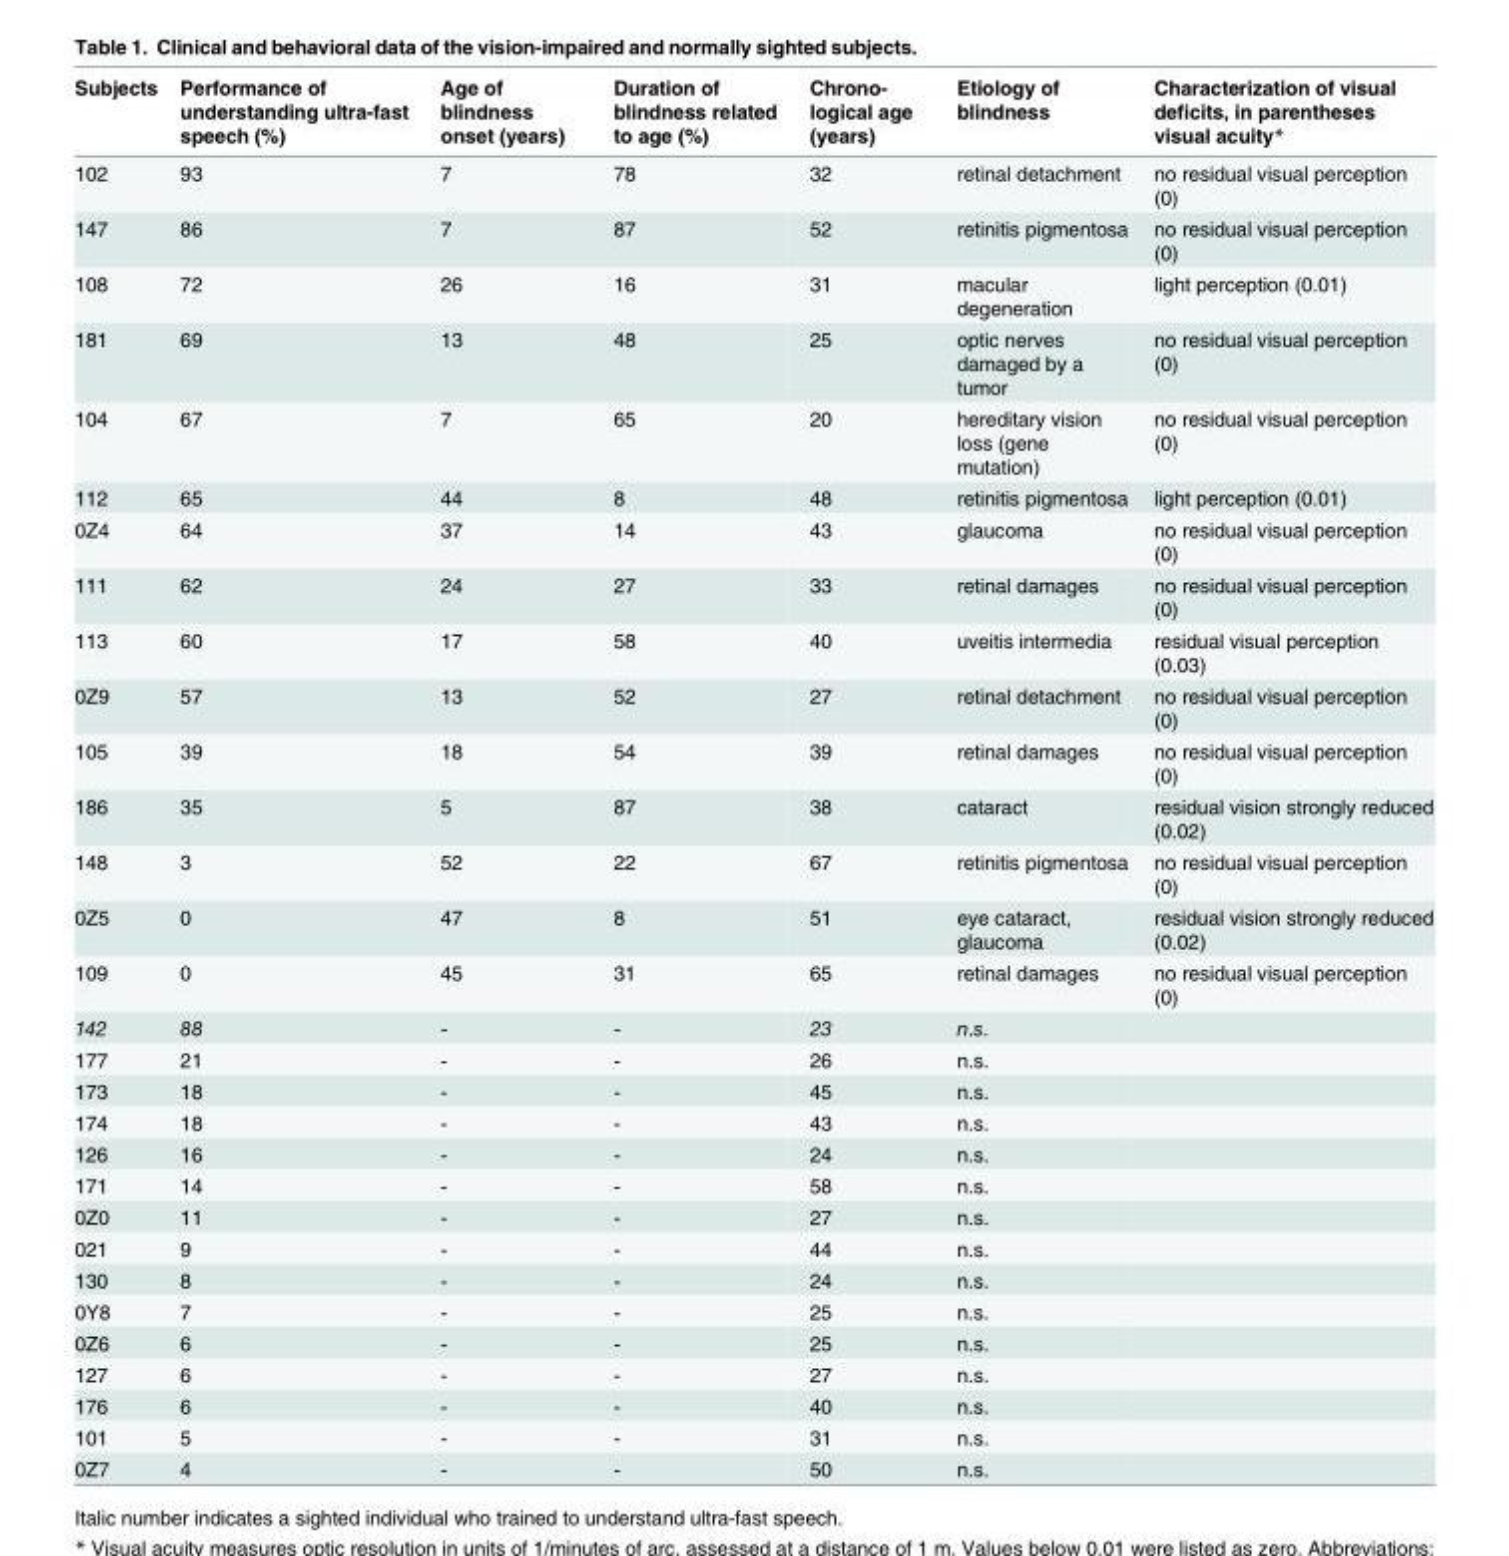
<table><thead><tr><td>Subjects</td><td>Performance of understanding ultra-fast speech (%)</td><td>Age of blindness onset (years)</td><td>Duration of blindness related to age (%)</td><td>Chrono- logical age (years)</td><td>Etiology of blindness</td><td>Characterization of visual deficits, in parentheses visual acuity*</td></tr></thead><tbody><tr><td>102</td><td>93</td><td>7</td><td>78</td><td>32</td><td>retinal detachment</td><td>no residual visual perception (0)</td></tr><tr><td>147</td><td>86</td><td>7</td><td>87</td><td>52</td><td>retinitis pigmentosa</td><td>no residual visual perception (0)</td></tr><tr><td>108</td><td>72</td><td>26</td><td>16</td><td>31</td><td>macular degeneration</td><td>light perception (0.01)</td></tr><tr><td>181</td><td>69</td><td>13</td><td>48</td><td>25</td><td>optic nerves damaged by a tumor</td><td>no residual visual perception (0)</td></tr><tr><td>104</td><td>67</td><td>7</td><td>65</td><td>20</td><td>hereditary vision loss (gene mutation)</td><td>no residual visual perception (0)</td></tr><tr><td>112</td><td>65</td><td>44</td><td>8</td><td>48</td><td>retinitis pigmentosa</td><td>light perception (0.01)</td></tr><tr><td>0Z4</td><td>64</td><td>37</td><td>14</td><td>43</td><td>glaucoma</td><td>no residual visual perception (0)</td></tr><tr><td>111</td><td>62</td><td>24</td><td>27</td><td>33</td><td>retinal damages</td><td>no residual visual perception (0)</td></tr><tr><td>113</td><td>60</td><td>17</td><td>58</td><td>40</td><td>uveitis intermedia</td><td>residual visual perception (0.03)</td></tr><tr><td>0Z9</td><td>57</td><td>13</td><td>52</td><td>27</td><td>retinal detachment</td><td>no residual visual perception (0)</td></tr><tr><td>105</td><td>39</td><td>18</td><td>54</td><td>39</td><td>retinal damages</td><td>no residual visual perception (0)</td></tr><tr><td>186</td><td>35</td><td>5</td><td>87</td><td>38</td><td>cataract</td><td>residual vision strongly reduced (0.02)</td></tr><tr><td>148</td><td>3</td><td>52</td><td>22</td><td>67</td><td>retinitis pigmentosa</td><td>no residual visual perception (0)</td></tr><tr><td>0Z5</td><td>0</td><td>47</td><td>8</td><td>51</td><td>eye cataract, glaucoma</td><td>residual vision strongly reduced (0.02)</td></tr><tr><td>109</td><td>0</td><td>45</td><td>31</td><td>65</td><td>retinal damages</td><td>no residual visual perception (0)</td></tr><tr><td>142</td><td>88</td><td>-</td><td>-</td><td>23</td><td>n.s.</td><td></td></tr><tr><td>177</td><td>21</td><td>-</td><td>-</td><td>26</td><td>n.s.</td><td></td></tr><tr><td>173</td><td>18</td><td>-</td><td>-</td><td>45</td><td>n.s.</td><td></td></tr><tr><td>174</td><td>18</td><td>-</td><td>-</td><td>43</td><td>n.s.</td><td></td></tr><tr><td>126</td><td>16</td><td>-</td><td>-</td><td>24</td><td>n.s.</td><td></td></tr><tr><td>171</td><td>14</td><td>-</td><td>-</td><td>58</td><td>n.s.</td><td></td></tr><tr><td>0Z0</td><td>11</td><td>-</td><td>-</td><td>27</td><td>n.s.</td><td></td></tr><tr><td>021</td><td>9</td><td>-</td><td>-</td><td>44</td><td>n.s.</td><td></td></tr><tr><td>130</td><td>8</td><td>-</td><td>-</td><td>24</td><td>n.s.</td><td></td></tr><tr><td>0Y8</td><td>7</td><td>-</td><td>-</td><td>25</td><td>n.s.</td><td></td></tr><tr><td>0Z6</td><td>6</td><td>-</td><td>-</td><td>25</td><td>n.s.</td><td></td></tr><tr><td>127</td><td>6</td><td>-</td><td>-</td><td>27</td><td>n.s.</td><td></td></tr><tr><td>176</td><td>6</td><td>-</td><td>-</td><td>40</td><td>n.s.</td><td></td></tr><tr><td>101</td><td>5</td><td>-</td><td>-</td><td>31</td><td>n.s.</td><td></td></tr><tr><td>0Z7</td><td>4</td><td>-</td><td>-</td><td>50</td><td>n.s.</td><td></td></tr></tbody></table>